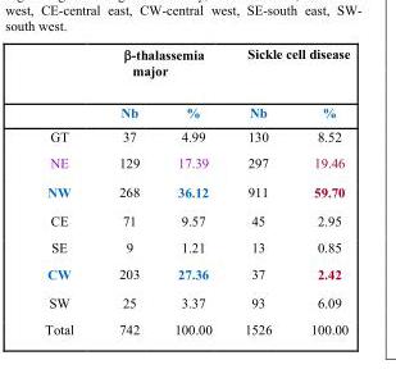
<table><thead><tr><td rowspan="2"></td><td colspan="2">β-thalassemia major</td><td colspan="2">Sickle cell disease</td></tr><tr><td>Nb</td><td>%</td><td>Nb</td><td>%</td></tr></thead><tbody><tr><td>GT</td><td>37</td><td>4.99</td><td>130</td><td>8.52</td></tr><tr><td>NE</td><td>129</td><td>17.39</td><td>297</td><td>19.46</td></tr><tr><td>NW</td><td>268</td><td>36.12</td><td>911</td><td>59.70</td></tr><tr><td>CE</td><td>71</td><td>9.57</td><td>45</td><td>2.95</td></tr><tr><td>SE</td><td>9</td><td>1.21</td><td>13</td><td>0.85</td></tr><tr><td>CW</td><td>203</td><td>27.36</td><td>37</td><td>2.42</td></tr><tr><td>SW</td><td>25</td><td>3.37</td><td>93</td><td>6.09</td></tr><tr><td>Total</td><td>742</td><td>100.00</td><td>1526</td><td>100.00</td></tr></tbody></table>